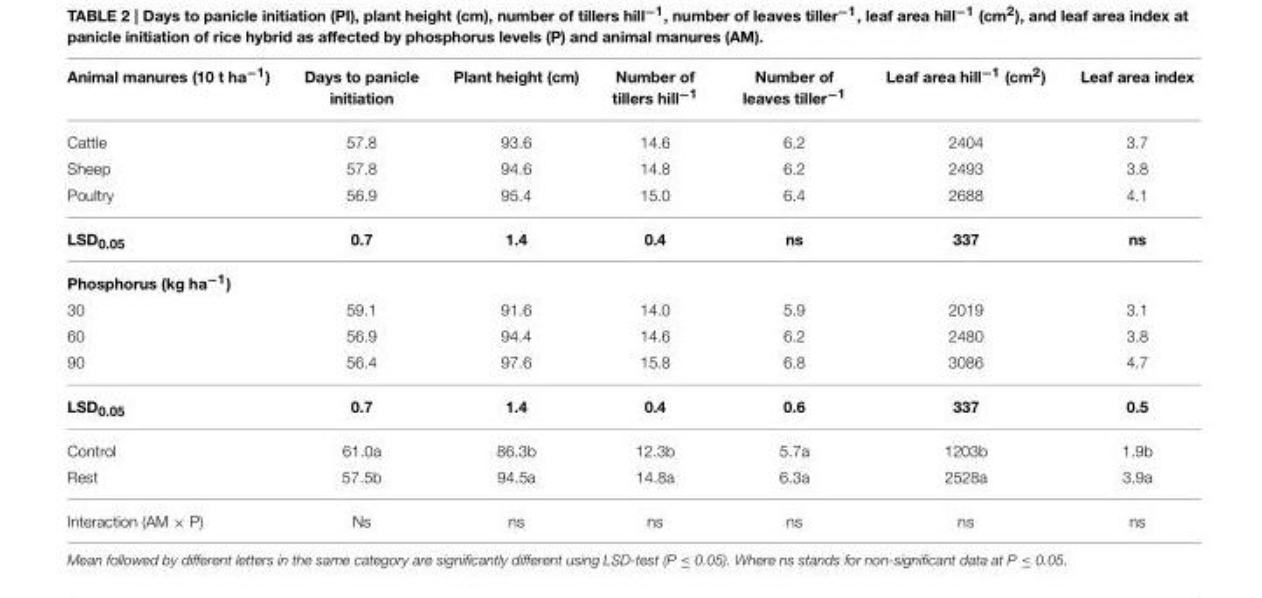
<table><thead><tr><td>Animal manures (10 t ha<sup>−1</sup>)</td><td>Days to panicle initiation</td><td>Plant height (cm)</td><td>Number of tillers hill<sup>−1</sup></td><td>Number of leaves tiller<sup>−1</sup></td><td>Leaf area hill<sup>−1</sup> (cm<sup>2</sup>)</td><td>Leaf area index</td></tr></thead><tbody><tr><td>Cattle</td><td>57.8</td><td>93.6</td><td>14.6</td><td>6.2</td><td>2404</td><td>3.7</td></tr><tr><td>Sheep</td><td>57.8</td><td>94.6</td><td>14.8</td><td>6.2</td><td>2493</td><td>3.8</td></tr><tr><td>Poultry</td><td>56.9</td><td>95.4</td><td>15.0</td><td>6.4</td><td>2688</td><td>4.1</td></tr><tr><td>LSD<sub>0.05</sub></td><td>0.7</td><td>1.4</td><td>0.4</td><td>ns</td><td>337</td><td>ns</td></tr><tr><td colspan="7">Phosphorus (kg ha<sup>−1</sup>)</td></tr><tr><td>30</td><td>59.1</td><td>91.6</td><td>14.0</td><td>5.9</td><td>2019</td><td>3.1</td></tr><tr><td>60</td><td>56.9</td><td>94.4</td><td>14.6</td><td>6.2</td><td>2480</td><td>3.8</td></tr><tr><td>90</td><td>56.4</td><td>97.6</td><td>15.8</td><td>6.8</td><td>3086</td><td>4.7</td></tr><tr><td>LSD<sub>0.05</sub></td><td>0.7</td><td>1.4</td><td>0.4</td><td>0.6</td><td>337</td><td>0.5</td></tr><tr><td>Control</td><td>61.0a</td><td>86.3b</td><td>12.3b</td><td>5.7a</td><td>1203b</td><td>1.9b</td></tr><tr><td>Rest</td><td>57.5b</td><td>94.5a</td><td>14.8a</td><td>6.3a</td><td>2528a</td><td>3.9a</td></tr><tr><td>Interaction (AM × P)</td><td>Ns</td><td>ns</td><td>ns</td><td>ns</td><td>ns</td><td>ns</td></tr></tbody></table>